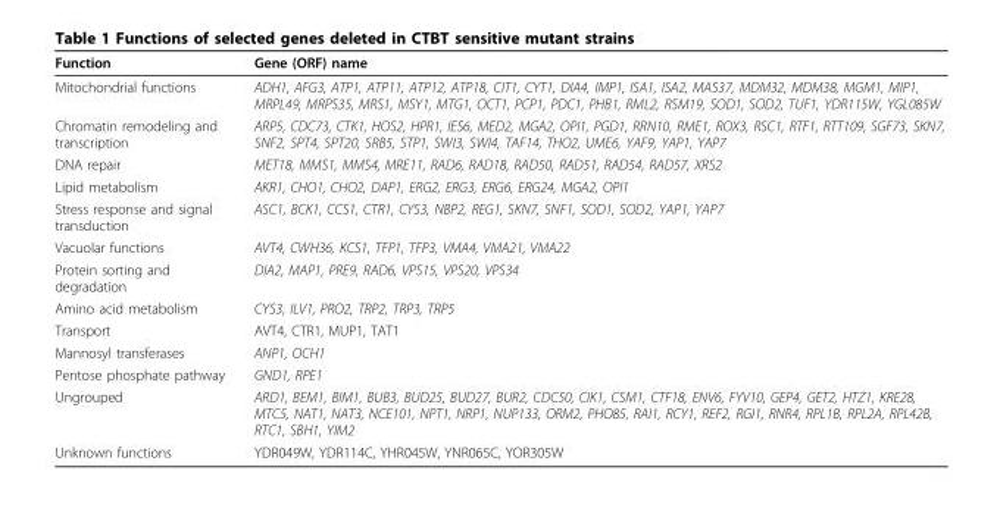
<table><thead><tr><td>Function</td><td>Gene (ORF) name</td></tr></thead><tbody><tr><td>Mitochondrial functions</td><td>ADH1, AFG3, ATP1, ATP11, ATP12, ATP18, CIT1, CYT1, DIA4, IMP1, ISA1, ISA2, MAS37, MDM32, MDM38, MGM1, MIP1, MRPL49, MRPS35, MRS1, MSY1, MTG1, OCT1, PCP1, PDC1, PHB1, RML2, RSM19, SOD1, SOD2, TUF1, YDR115W, YGL085W</td></tr><tr><td>Chromatin remodeling and transcription</td><td>ARP5, CDC73, CTK1, HOS2, HPR1, IES6, MED2, MGA2, OPI1, PGD1, RRN10, RME1, ROX3, RSC1, RTF1, RTT109, SGF73, SKN7, SNF2, SPT4, SPT20, SRB5, STP1, SWI3, SWI4, TAF14, THO2, UME6, YAF9, YAP1, YAP7</td></tr><tr><td>DNA repair</td><td>MET18, MMS1, MMS4, MRE11, RAD6, RAD18, RAD50, RAD51, RAD54, RAD57, XRS2</td></tr><tr><td>Lipid metabolism</td><td>AKR1, CHO1, CHO2, DAP1, ERG2, ERG3, ERG6, ERG24, MGA2, OPI1</td></tr><tr><td>Stress response and signal transduction</td><td>ASC1, BCK1, CCS1, CTR1, CYS3, NBP2, REG1, SKN7, SNF1, SOD1, SOD2, YAP1, YAP7</td></tr><tr><td>Vacuolar functions</td><td>AVT4, CWH36, KCS1, TFP1, TFP3, VMA4, VMA21, VMA22</td></tr><tr><td>Protein sorting and degradation</td><td>DIA2, MAP1, PRE9, RAD6, VPS15, VPS20, VPS34</td></tr><tr><td>Amino acid metabolism</td><td>CYS3, ILV1, PRO2, TRP2, TRP3, TRP5</td></tr><tr><td>Transport</td><td>AVT4, CTR1, MUP1, TAT1</td></tr><tr><td>Mannosyl transferases</td><td>ANP1, OCH1</td></tr><tr><td>Pentose phosphate pathway</td><td>GND1, RPE1</td></tr><tr><td>Ungrouped</td><td>ARD1, BEM1, BIM1, BUB3, BUD25, BUD27, BUR2, CDC50, CIK1, CSM1, CTF18, ENV6, FYV10, GEP4, GET2, HTZ1, KRE28, MTC5, NAT1, NAT3, NCE101, NPT1, NRP1, NUP133, ORM2, PHO85, RAI1, RCY1, REF2, RGI1, RNR4, RPL1B, RPL2A, RPL42B, RTC1, SBH1, YIM2</td></tr><tr><td>Unknown functions</td><td>YDR049W, YDR114C, YHR045W, YNR065C, YOR305W</td></tr></tbody></table>